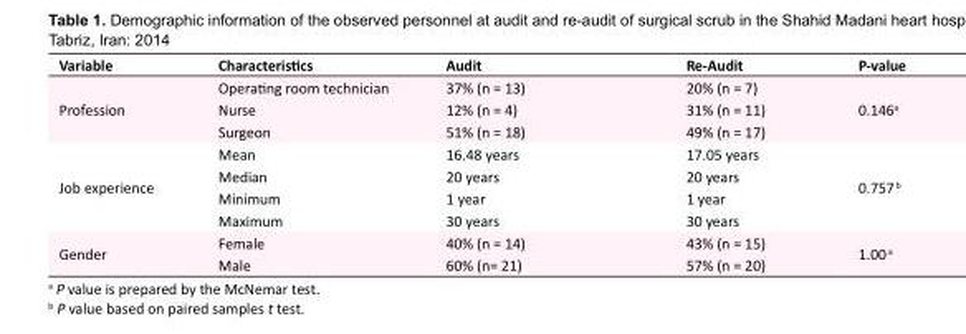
<table><tbody><tr><td>Variable</td><td>Characteristics</td><td>Audit</td><td>Re-Audit</td><td>P-value</td></tr><tr><td rowspan="3">Profession</td><td>Operating room technician</td><td>37% (n = 13)</td><td>20% (n = 7)</td><td rowspan="3">0.146<sup>a</sup></td></tr><tr><td>Nurse</td><td>12% (n = 4)</td><td>31% (n = 11)</td></tr><tr><td>Surgeon</td><td>51% (n = 18)</td><td>49% (n = 17)</td></tr><tr><td rowspan="4">Job experience</td><td>Mean</td><td>16.48 years</td><td>17.05 years</td><td rowspan="4">0.757 <sup>b</sup></td></tr><tr><td>Median</td><td>20 years</td><td>20 years</td></tr><tr><td>Minimum</td><td>1 year</td><td>1 year</td></tr><tr><td>Maximum</td><td>30 years</td><td>30 years</td></tr><tr><td rowspan="2">Gender</td><td>Female</td><td>40% (n = 14)</td><td>43% (n = 15)</td><td rowspan="2">1.00 <sup>a</sup></td></tr><tr><td>Male</td><td>60% (n= 21)</td><td>57% (n = 20)</td></tr></tbody></table>